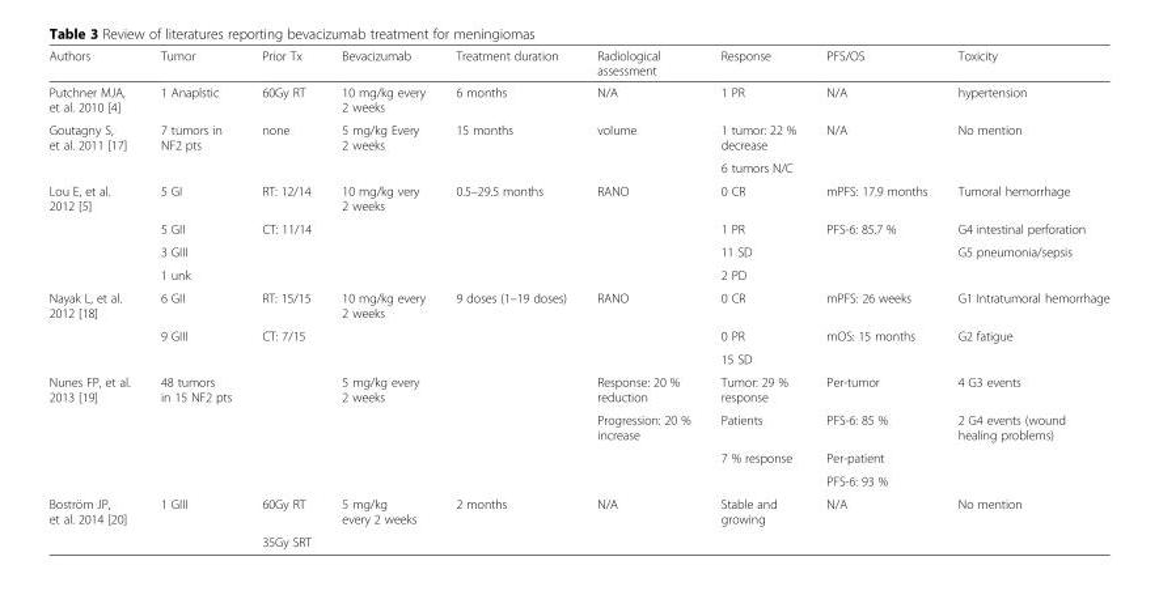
<table><thead><tr><td>Authors</td><td>Tumor</td><td>Prior Tx</td><td>Bevacizumab</td><td>Treatment duration</td><td>Radiological assessment</td><td>Response</td><td>PFS/OS</td><td>Toxicity</td></tr></thead><tbody><tr><td>Putchner MJA, et al. 2010 [4]</td><td>1 Anaplstic</td><td>60Gy RT</td><td>10 mg/kg every 2 weeks</td><td>6 months</td><td>N/A</td><td>1 PR</td><td>N/A</td><td>hypertension</td></tr><tr><td rowspan="2">Goutagny S, et al. 2011 [17]</td><td rowspan="2">7 tumors in NF2 pts</td><td rowspan="2">none</td><td rowspan="2">5 mg/kg Every 2 weeks</td><td rowspan="2">15 months</td><td rowspan="2">volume</td><td>1 tumor: 22 % decrease</td><td rowspan="2">N/A</td><td rowspan="2">No mention</td></tr><tr><td>6 tumors N/C</td></tr><tr><td rowspan="4">Lou E, et al. 2012 [5]</td><td>5 GI</td><td>RT: 12/14</td><td>10 mg/kg very 2 weeks</td><td>0.5–29.5 months</td><td>RANO</td><td>0 CR</td><td>mPFS: 17.9 months</td><td>Tumoral hemorrhage</td></tr><tr><td>5 GII</td><td>CT: 11/14</td><td></td><td></td><td></td><td>1 PR</td><td>PFS-6: 85.7 %</td><td>G4 intestinal perforation</td></tr><tr><td>3 GIII</td><td></td><td></td><td></td><td></td><td>11 SD</td><td></td><td>G5 pneumonia/sepsis</td></tr><tr><td>1 unk</td><td></td><td></td><td></td><td></td><td>2 PD</td><td></td><td></td></tr><tr><td rowspan="3">Nayak L, et al. 2012 [18]</td><td>6 GII</td><td>RT: 15/15</td><td>10 mg/kg every 2 weeks</td><td>9 doses (1–19 doses)</td><td>RANO</td><td>0 CR</td><td>mPFS: 26 weeks</td><td>G1 Intratumoral hemorrhage</td></tr><tr><td>9 GIII</td><td>CT: 7/15</td><td></td><td></td><td></td><td>0 PR</td><td>mOS: 15 months</td><td>G2 fatigue</td></tr><tr><td></td><td></td><td></td><td></td><td></td><td>15 SD</td><td></td><td></td></tr><tr><td rowspan="4">Nunes FP, et al. 2013 [19]</td><td rowspan="4">48 tumors in 15 NF2 pts</td><td rowspan="4"></td><td rowspan="4">5 mg/kg every 2 weeks</td><td rowspan="4"></td><td>Response: 20 % reduction</td><td>Tumor: 29 % response</td><td>Per-tumor</td><td>4 G3 events</td></tr><tr><td>Progression: 20 % increase</td><td>Patients</td><td>PFS-6: 85 %</td><td>2 G4 events (wound healing problems)</td></tr><tr><td></td><td>7 % response</td><td>Per-patient</td><td></td></tr><tr><td></td><td></td><td>PFS-6: 93 %</td><td></td></tr><tr><td rowspan="2">Boström JP, et al. 2014 [20]</td><td>1 GIII</td><td>60Gy RT</td><td>5 mg/kg every 2 weeks</td><td>2 months</td><td>N/A</td><td>Stable and growing</td><td>N/A</td><td>No mention</td></tr><tr><td></td><td>35Gy SRT</td><td></td><td></td><td></td><td></td><td></td><td></td></tr></tbody></table>